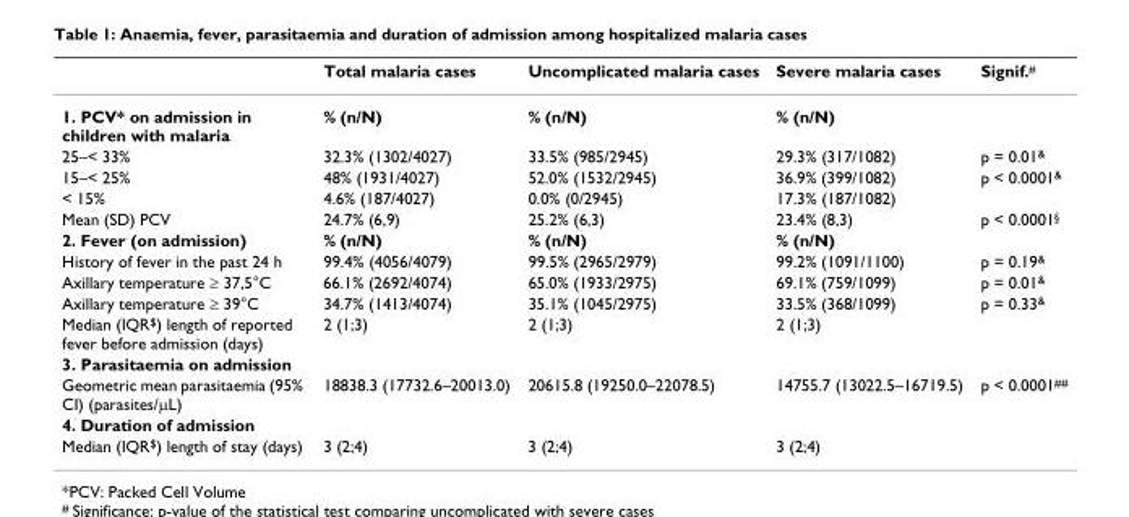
<table><thead><tr><td></td><td>Total malaria cases</td><td>Uncomplicated malaria cases</td><td>Severe malaria cases</td><td>Signif.<sup>#</sup></td></tr></thead><tbody><tr><td>1. PCV* on admission in children with malaria</td><td>% (n/N)</td><td>% (n/N)</td><td>% (n/N)</td><td></td></tr><tr><td>25–&lt; 33%</td><td>32.3% (1302/4027)</td><td>33.5% (985/2945)</td><td>29.3% (317/1082)</td><td>p = 0.01<sup>&amp;</sup></td></tr><tr><td>15–&lt; 25%</td><td>48% (1931/4027)</td><td>52.0% (1532/2945)</td><td>36.9% (399/1082)</td><td>p &lt; 0.0001<sup>&amp;</sup></td></tr><tr><td>&lt; 15%</td><td>4.6% (187/4027)</td><td>0.0% (0/2945)</td><td>17.3% (187/1082)</td><td></td></tr><tr><td>Mean (SD) PCV</td><td>24.7% (6,9)</td><td>25.2% (6,3)</td><td>23.4% (8,3)</td><td>p &lt; 0.0001<sup>§</sup></td></tr><tr><td>2. Fever (on admission)</td><td>% (n/N)</td><td>% (n/N)</td><td>% (n/N)</td><td></td></tr><tr><td>History of fever in the past 24 h</td><td>99.4% (4056/4079)</td><td>99.5% (2965/2979)</td><td>99.2% (1091/1100)</td><td>p = 0.19<sup>&amp;</sup></td></tr><tr><td>Axillary temperature ≥ 37,5°C</td><td>66.1% (2692/4074)</td><td>65.0% (1933/2975)</td><td>69.1% (759/1099)</td><td>p = 0.01<sup>&amp;</sup></td></tr><tr><td>Axillary temperature ≥ 39°C</td><td>34.7% (1413/4074)</td><td>35.1% (1045/2975)</td><td>33.5% (368/1099)</td><td>p = 0.33<sup>&amp;</sup></td></tr><tr><td>Median (IQR<sup>$</sup>) length of reported fever before admission (days)</td><td>2 (1;3)</td><td>2 (1;3)</td><td>2 (1;3)</td><td></td></tr><tr><td colspan="5">3. Parasitaemia on admission</td></tr><tr><td>Geometric mean parasitaemia (95% CI) (parasites/µL)</td><td>18838.3 (17732.6–20013.0)</td><td>20615.8 (19250.0–22078.5)</td><td>14755.7 (13022.5–16719.5)</td><td>p &lt; 0.0001<sup>##</sup></td></tr><tr><td colspan="5">4. Duration of admission</td></tr><tr><td>Median (IQR<sup>$</sup>) length of stay (days)</td><td>3 (2;4)</td><td>3 (2;4)</td><td>3 (2;4)</td><td></td></tr></tbody></table>